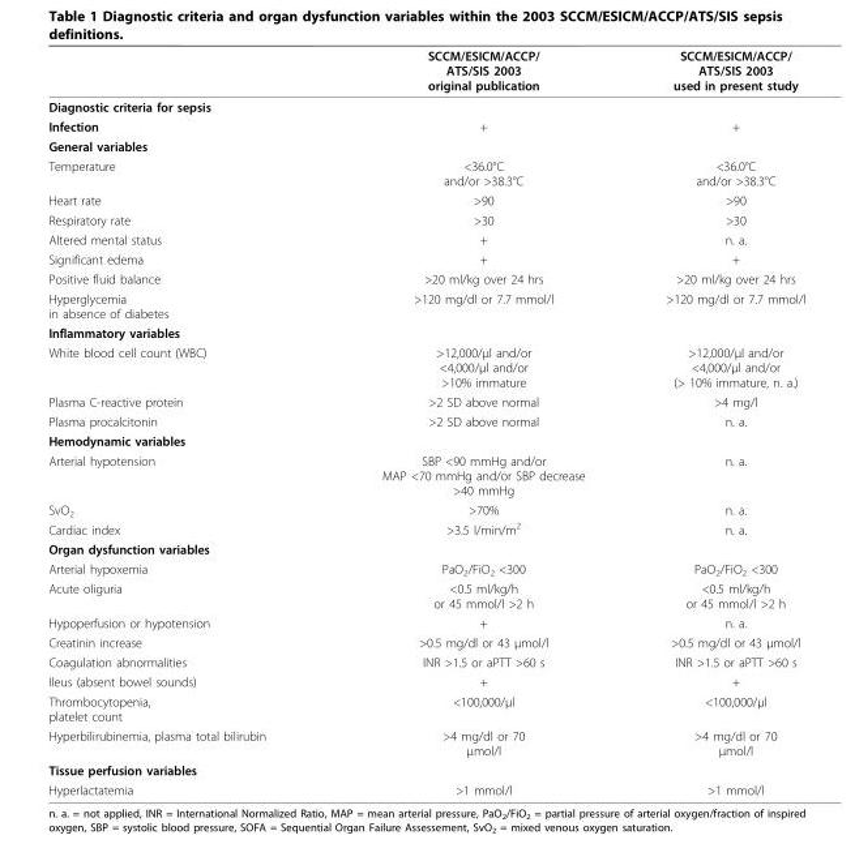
<table><thead><tr><td></td><td>SCCM/ESICM/ACCP/ ATS/SIS 2003 original publication</td><td>SCCM/ESICM/ACCP/ ATS/SIS 2003 used in present study</td></tr></thead><tbody><tr><td colspan="3">Diagnostic criteria for sepsis</td></tr><tr><td>Infection</td><td>+</td><td>+</td></tr><tr><td colspan="3">General variables</td></tr><tr><td>Temperature</td><td>&lt;36.0°C and/or &gt;38.3°C</td><td>&lt;36.0°C and/or &gt;38.3°C</td></tr><tr><td>Heart rate</td><td>&gt;90</td><td>&gt;90</td></tr><tr><td>Respiratory rate</td><td>&gt;30</td><td>&gt;30</td></tr><tr><td>Altered mental status</td><td>+</td><td>n. a.</td></tr><tr><td>Significant edema</td><td>+</td><td>+</td></tr><tr><td>Positive fluid balance</td><td>&gt;20 ml/kg over 24 hrs</td><td>&gt;20 ml/kg over 24 hrs</td></tr><tr><td>Hyperglycemia in absence of diabetes</td><td>&gt;120 mg/dl or 7.7 mmol/l</td><td>&gt;120 mg/dl or 7.7 mmol/l</td></tr><tr><td colspan="3">Inflammatory variables</td></tr><tr><td>White blood cell count (WBC)</td><td>&gt;12,000/μl and/or &lt;4,000/μl and/or &gt;10% immature</td><td>&gt;12,000/μl and/or &lt;4,000/μl and/or (&gt; 10% immature, n. a.)</td></tr><tr><td>Plasma C-reactive protein</td><td>&gt;2 SD above normal</td><td>&gt;4 mg/l</td></tr><tr><td>Plasma procalcitonin</td><td>&gt;2 SD above normal</td><td>n. a.</td></tr><tr><td colspan="3">Hemodynamic variables</td></tr><tr><td>Arterial hypotension</td><td>SBP &lt;90 mmHg and/or MAP &lt;70 mmHg and/or SBP decrease &gt;40 mmHg</td><td>n. a.</td></tr><tr><td>SvO<sub>2</sub></td><td>&gt;70%</td><td>n. a.</td></tr><tr><td>Cardiac index</td><td>&gt;3.5 l/min/m<sup>2</sup></td><td>n. a.</td></tr><tr><td colspan="3">Organ dysfunction variables</td></tr><tr><td>Arterial hypoxemia</td><td>PaO<sub>2</sub>/FiO<sub>2</sub> &lt;300</td><td>PaO<sub>2</sub>/FiO<sub>2</sub> &lt;300</td></tr><tr><td>Acute oliguria</td><td>&lt;0.5 ml/kg/h or 45 mmol/l &gt;2 h</td><td>&lt;0.5 ml/kg/h or 45 mmol/l &gt;2 h</td></tr><tr><td>Hypoperfusion or hypotension</td><td>+</td><td>n. a.</td></tr><tr><td>Creatinin increase</td><td>&gt;0.5 mg/dl or 43 μmol/l</td><td>&gt;0.5 mg/dl or 43 μmol/l</td></tr><tr><td>Coagulation abnormalities</td><td>INR &gt;1.5 or aPTT &gt;60 s</td><td>INR &gt;1.5 or aPTT &gt;60 s</td></tr><tr><td>Ileus (absent bowel sounds)</td><td>+</td><td>+</td></tr><tr><td>Thrombocytopenia, platelet count</td><td>&lt;100,000/μl</td><td>&lt;100,000/μl</td></tr><tr><td>Hyperbilirubinemia, plasma total bilirubin</td><td>&gt;4 mg/dl or 70 μmol/l</td><td>&gt;4 mg/dl or 70 μmol/l</td></tr><tr><td colspan="3">Tissue perfusion variables</td></tr><tr><td>Hyperlactatemia</td><td>&gt;1 mmol/l</td><td>&gt;1 mmol/l</td></tr></tbody></table>